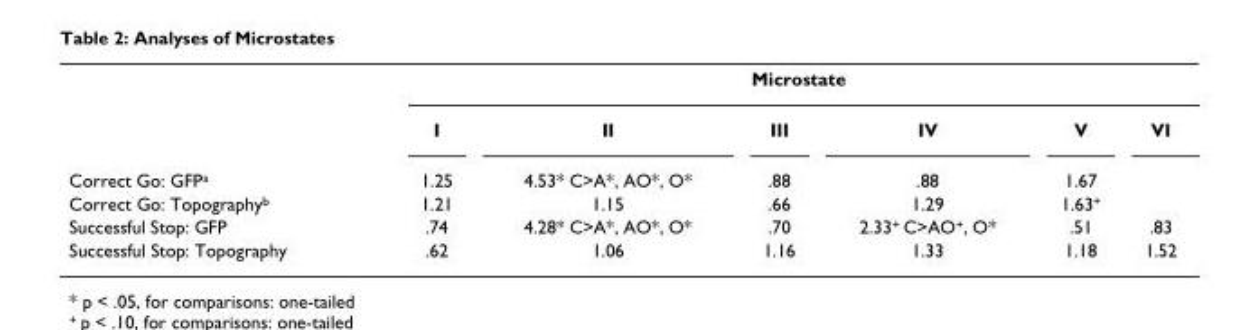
<table><thead><tr><td rowspan="2"></td><td colspan="6">Microstate</td></tr><tr><td>I</td><td>II</td><td>III</td><td>IV</td><td>V</td><td>VI</td></tr></thead><tbody><tr><td>Correct Go: GFP<sup>a</sup></td><td>1.25</td><td>4.53* C&gt;A*, AO*, O*</td><td>.88</td><td>.88</td><td>1.67</td><td></td></tr><tr><td>Correct Go: Topography<sup>b</sup></td><td>1.21</td><td>1.15</td><td>.66</td><td>1.29</td><td>1.63<sup>+</sup></td><td></td></tr><tr><td>Successful Stop: GFP</td><td>.74</td><td>4.28* C&gt;A*, AO*, O*</td><td>.70</td><td>2.33<sup>+</sup> C&gt;AO<sup>+</sup>, O*</td><td>.51</td><td>.83</td></tr><tr><td>Successful Stop: Topography</td><td>.62</td><td>1.06</td><td>1.16</td><td>1.33</td><td>1.18</td><td>1.52</td></tr></tbody></table>